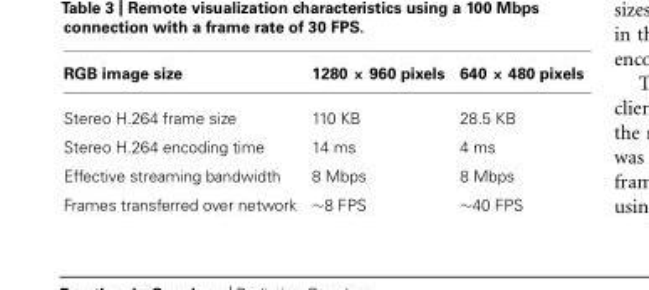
<table><thead><tr><td>RGB image size</td><td>1280 × 960 pixels</td><td>640 × 480 pixels</td></tr></thead><tbody><tr><td>Stereo H.264 frame size</td><td>110 KB</td><td>28.5 KB</td></tr><tr><td>Stereo H.264 encoding time</td><td>14 ms</td><td>4 ms</td></tr><tr><td>Effective streaming bandwidth</td><td>8 Mbps</td><td>8 Mbps</td></tr><tr><td>Frames transferred over network</td><td>∼8 FPS</td><td>∼40 FPS</td></tr></tbody></table>